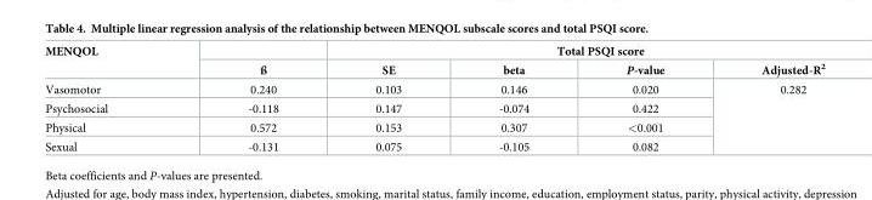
<table><thead><tr><td rowspan="2">MENQOL</td><td rowspan="2">ß</td><td colspan="4">Total PSQI score</td></tr><tr><td>SE</td><td>beta</td><td>P-value</td><td>Adjusted-R<sup>2</sup></td></tr></thead><tbody><tr><td>Vasomotor</td><td>0.240</td><td>0.103</td><td>0.146</td><td>0.020</td><td rowspan="4">0.282</td></tr><tr><td>Psychosocial</td><td>-0.118</td><td>0.147</td><td>-0.074</td><td>0.422</td></tr><tr><td>Physical</td><td>0.572</td><td>0.153</td><td>0.307</td><td>&lt;0.001</td></tr><tr><td>Sexual</td><td>-0.131</td><td>0.075</td><td>-0.105</td><td>0.082</td></tr></tbody></table>